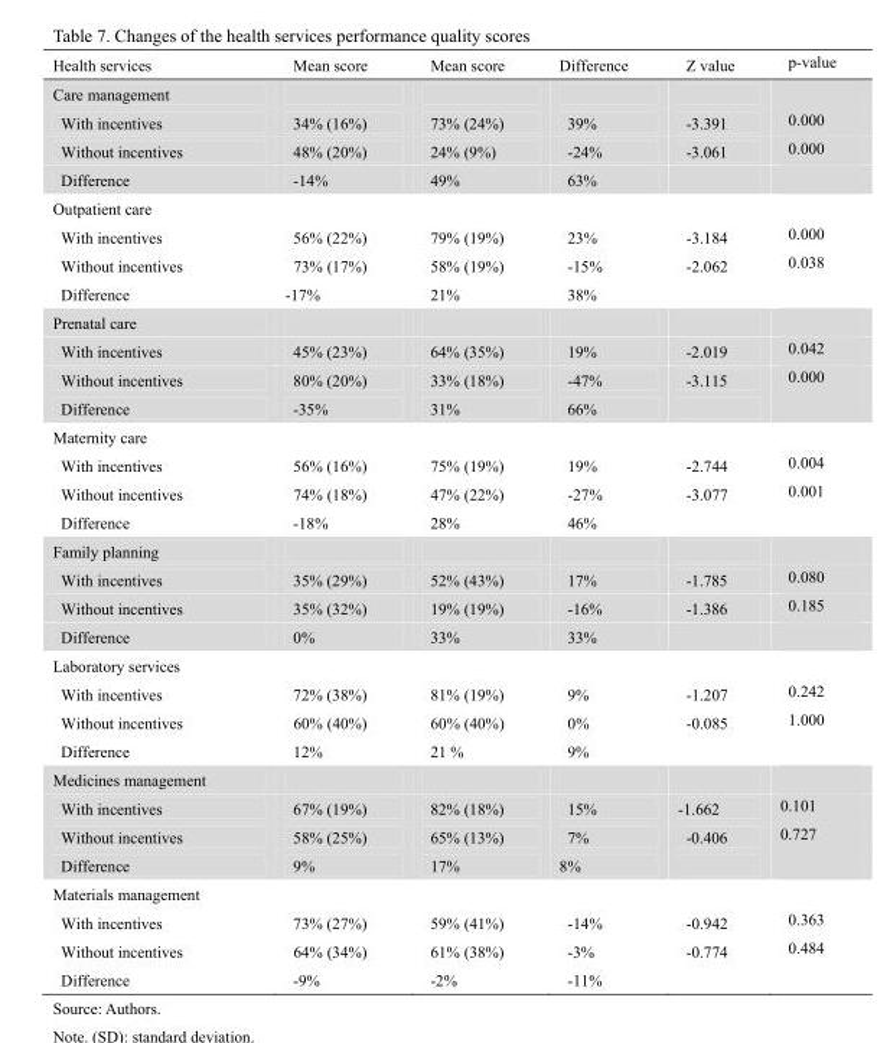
<table><thead><tr><td>Health services</td><td>Mean score</td><td>Mean score</td><td>Difference</td><td>Z value</td><td>p-value</td></tr></thead><tbody><tr><td colspan="6">Care management</td></tr><tr><td>With incentives</td><td>34% (16%)</td><td>73% (24%)</td><td>39%</td><td>-3.391</td><td>0.000</td></tr><tr><td>Without incentives</td><td>48% (20%)</td><td>24% (9%)</td><td>-24%</td><td>-3.061</td><td>0.000</td></tr><tr><td>Difference</td><td>-14%</td><td>49%</td><td>63%</td><td></td><td></td></tr><tr><td colspan="6">Outpatient care</td></tr><tr><td>With incentives</td><td>56% (22%)</td><td>79% (19%)</td><td>23%</td><td>-3.184</td><td>0.000</td></tr><tr><td>Without incentives</td><td>73% (17%)</td><td>58% (19%)</td><td>-15%</td><td>-2.062</td><td>0.038</td></tr><tr><td>Difference</td><td>-17%</td><td>21%</td><td>38%</td><td></td><td></td></tr><tr><td colspan="6">Prenatal care</td></tr><tr><td>With incentives</td><td>45% (23%)</td><td>64% (35%)</td><td>19%</td><td>-2.019</td><td>0.042</td></tr><tr><td>Without incentives</td><td>80% (20%)</td><td>33% (18%)</td><td>-47%</td><td>-3.115</td><td>0.000</td></tr><tr><td>Difference</td><td>-35%</td><td>31%</td><td>66%</td><td></td><td></td></tr><tr><td colspan="6">Maternity care</td></tr><tr><td>With incentives</td><td>56% (16%)</td><td>75% (19%)</td><td>19%</td><td>-2.744</td><td>0.004</td></tr><tr><td>Without incentives</td><td>74% (18%)</td><td>47% (22%)</td><td>-27%</td><td>-3.077</td><td>0.001</td></tr><tr><td>Difference</td><td>-18%</td><td>28%</td><td>46%</td><td></td><td></td></tr><tr><td colspan="6">Family planning</td></tr><tr><td>With incentives</td><td>35% (29%)</td><td>52% (43%)</td><td>17%</td><td>-1.785</td><td>0.080</td></tr><tr><td>Without incentives</td><td>35% (32%)</td><td>19% (19%)</td><td>-16%</td><td>-1.386</td><td>0.185</td></tr><tr><td>Difference</td><td>0%</td><td>33%</td><td>33%</td><td></td><td></td></tr><tr><td colspan="6">Laboratory services</td></tr><tr><td>With incentives</td><td>72% (38%)</td><td>81% (19%)</td><td>9%</td><td>-1.207</td><td>0.242</td></tr><tr><td>Without incentives</td><td>60% (40%)</td><td>60% (40%)</td><td>0%</td><td>-0.085</td><td>1.000</td></tr><tr><td>Difference</td><td>12%</td><td>21 %</td><td>9%</td><td></td><td></td></tr><tr><td colspan="6">Medicines management</td></tr><tr><td>With incentives</td><td>67% (19%)</td><td>82% (18%)</td><td>15%</td><td>-1.662</td><td>0.101</td></tr><tr><td>Without incentives</td><td>58% (25%)</td><td>65% (13%)</td><td>7%</td><td>-0.406</td><td>0.727</td></tr><tr><td>Difference</td><td>9%</td><td>17%</td><td>8%</td><td></td><td></td></tr><tr><td colspan="6">Materials management</td></tr><tr><td>With incentives</td><td>73% (27%)</td><td>59% (41%)</td><td>-14%</td><td>-0.942</td><td>0.363</td></tr><tr><td>Without incentives</td><td>64% (34%)</td><td>61% (38%)</td><td>-3%</td><td>-0.774</td><td>0.484</td></tr><tr><td>Difference</td><td>-9%</td><td>-2%</td><td>-11%</td><td></td><td></td></tr></tbody></table>